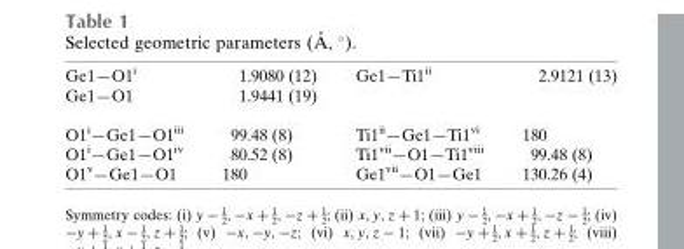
<table><tbody><tr><td>Ge1—O1<sup>i</sup></td><td>1.9080 (12)</td><td>Ge1—Ti1<sup>ii</sup></td><td>2.9121 (13)</td></tr><tr><td>Ge1—O1</td><td>1.9441 (19)</td><td></td><td></td></tr><tr><td>O1<sup>i</sup>—Ge1—O1<sup>iii</sup></td><td>99.48 (8)</td><td>Ti1<sup>ii</sup>—Ge1—Ti1<sup>vi</sup></td><td>180</td></tr><tr><td>O1<sup>i</sup>—Ge1—O1<sup>iv</sup></td><td>80.52 (8)</td><td>Ti1<sup>vii</sup>—O1—Ti1<sup>viii</sup></td><td>99.48 (8)</td></tr><tr><td>O1<sup>v</sup>—Ge1—O1</td><td>180</td><td>Ge1<sup>vii</sup>—O1—Ge1</td><td>130.26 (4)</td></tr></tbody></table>